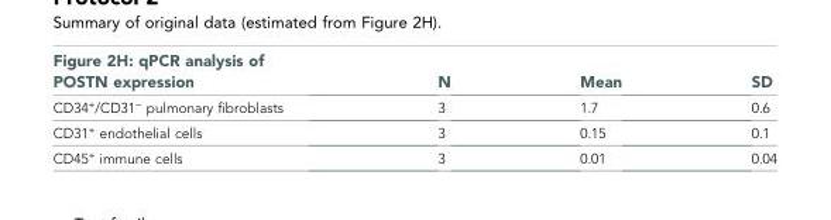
<table><thead><tr><td>Figure 2H: qPCR analysis of POSTN expression</td><td>N</td><td>Mean</td><td>SD</td></tr></thead><tbody><tr><td>CD34<sup>+</sup>/CD31<sup>−</sup> pulmonary fibroblasts</td><td>3</td><td>1.7</td><td>0.6</td></tr><tr><td>CD31<sup>+</sup> endothelial cells</td><td>3</td><td>0.15</td><td>0.1</td></tr><tr><td>CD45<sup>+</sup> immune cells</td><td>3</td><td>0.01</td><td>0.04</td></tr></tbody></table>